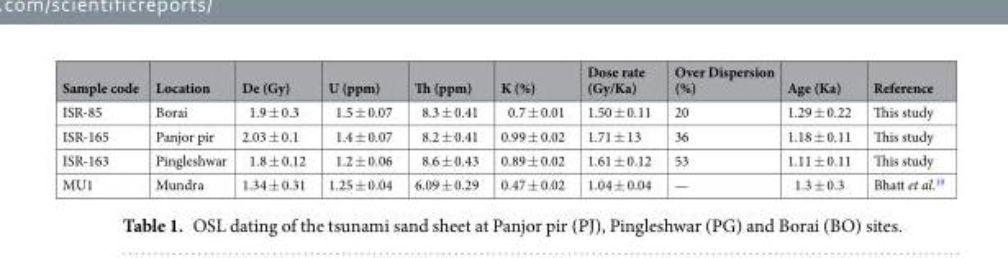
<table><thead><tr><td>Sample code</td><td>Location</td><td>De (Gy)</td><td>U (ppm)</td><td>Th (ppm)</td><td>K (%)</td><td>Dose rate (Gy/Ka)</td><td>Over Dispersion (%)</td><td>Age (Ka)</td><td>Reference</td></tr></thead><tbody><tr><td>ISR-85</td><td>Borai</td><td>1.9 ± 0.3</td><td>1.5 ± 0.07</td><td>8.3 ± 0.41</td><td>0.7 ± 0.01</td><td>1.50 ± 0.11</td><td>20</td><td>1.29 ± 0.22</td><td>This study</td></tr><tr><td>ISR-165</td><td>Panjor pir</td><td>2.03 ± 0.1</td><td>1.4 ± 0.07</td><td>8.2 ± 0.41</td><td>0.99 ± 0.02</td><td>1.71 ± 13</td><td>36</td><td>1.18 ± 0.11</td><td>This study</td></tr><tr><td>ISR-163</td><td>Pingleshwar</td><td>1.8 ± 0.12</td><td>1.2 ± 0.06</td><td>8.6 ± 0.43</td><td>0.89 ± 0.02</td><td>1.61 ± 0.12</td><td>53</td><td>1.11 ± 0.11</td><td>This study</td></tr><tr><td>MU1</td><td>Mundra</td><td>1.34 ± 0.31</td><td>1.25 ± 0.04</td><td>6.09 ± 0.29</td><td>0.47 ± 0.02</td><td>1.04 ± 0.04</td><td>—</td><td>1.3 ± 0.3</td><td>Bhatt et al.<sup>10</sup></td></tr></tbody></table>